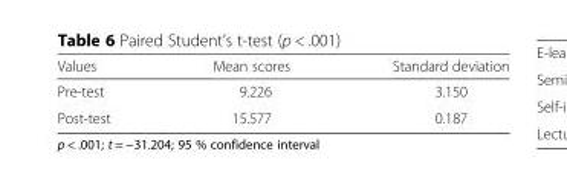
<table><thead><tr><td>Values</td><td>Mean scores</td><td>Standard deviation</td></tr></thead><tbody><tr><td>Pre-test</td><td>9.226</td><td>3.150</td></tr><tr><td>Post-test</td><td>15.577</td><td>0.187</td></tr></tbody></table>